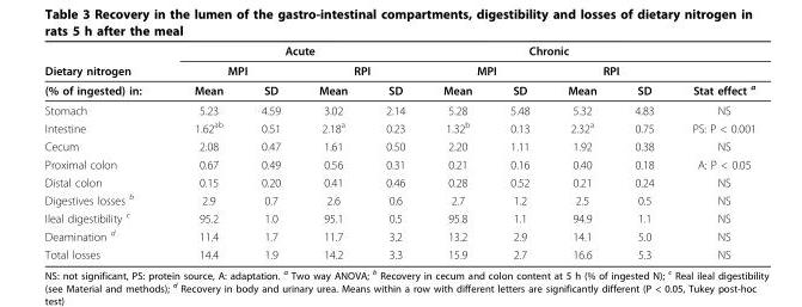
<table><thead><tr><td rowspan="3">Dietary nitrogen (% of ingested) in:</td><td colspan="4">Acute</td><td colspan="4">Chronic</td><td rowspan="3">Stat effect <sup>a</sup></td></tr><tr><td colspan="2">MPI</td><td colspan="2">RPI</td><td colspan="2">MPI</td><td colspan="2">RPI</td></tr><tr><td>Mean</td><td>SD</td><td>Mean</td><td>SD</td><td>Mean</td><td>SD</td><td>Mean</td><td>SD</td></tr></thead><tbody><tr><td>Stomach</td><td>5.23</td><td>4.59</td><td>3.02</td><td>2.14</td><td>5.28</td><td>5.48</td><td>5.32</td><td>4.83</td><td>NS</td></tr><tr><td>Intestine</td><td>1.62<sup>ab</sup></td><td>0.51</td><td>2.18<sup>a</sup></td><td>0.23</td><td>1.32<sup>b</sup></td><td>0.13</td><td>2.32<sup>a</sup></td><td>0.75</td><td>PS: P &lt; 0.001</td></tr><tr><td>Cecum</td><td>2.08</td><td>0.47</td><td>1.61</td><td>0.50</td><td>2.20</td><td>1.11</td><td>1.92</td><td>0.38</td><td>NS</td></tr><tr><td>Proximal colon</td><td>0.67</td><td>0.49</td><td>0.56</td><td>0.31</td><td>0.21</td><td>0.16</td><td>0.40</td><td>0.18</td><td>A: P &lt; 0.05</td></tr><tr><td>Distal colon</td><td>0.15</td><td>0.20</td><td>0.41</td><td>0.46</td><td>0.28</td><td>0.52</td><td>0.21</td><td>0.24</td><td>NS</td></tr><tr><td>Digestives losses <sup>b</sup></td><td>2.9</td><td>0.7</td><td>2.6</td><td>0.6</td><td>2.7</td><td>1.2</td><td>2.5</td><td>0.5</td><td>NS</td></tr><tr><td>Ileal digestibility <sup>c</sup></td><td>95.2</td><td>1.0</td><td>95.1</td><td>0.5</td><td>95.8</td><td>1.1</td><td>94.9</td><td>1.1</td><td>NS</td></tr><tr><td>Deamination <sup>d</sup></td><td>11.4</td><td>1.7</td><td>11.7</td><td>3.2</td><td>13.2</td><td>2.9</td><td>14.1</td><td>5.0</td><td>NS</td></tr><tr><td>Total losses</td><td>14.4</td><td>1.9</td><td>14.2</td><td>3.3</td><td>15.9</td><td>2.7</td><td>16.6</td><td>5.3</td><td>NS</td></tr></tbody></table>